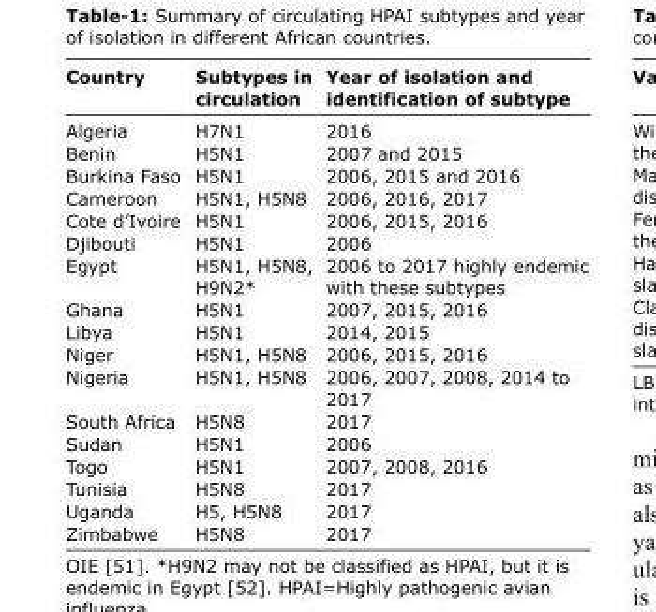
<table><thead><tr><td>Country</td><td>Subtypes in circulation</td><td>Year of isolation and identification of subtype</td></tr></thead><tbody><tr><td>Algeria</td><td>H7N1</td><td>2016</td></tr><tr><td>Benin</td><td>H5N1</td><td>2007 and 2015</td></tr><tr><td>Burkina Faso</td><td>H5N1</td><td>2006, 2015 and 2016</td></tr><tr><td>Cameroon</td><td>H5N1, H5N8</td><td>2006, 2016, 2017</td></tr><tr><td>Cote d’Ivoire</td><td>H5N1</td><td>2006, 2015, 2016</td></tr><tr><td>Djibouti</td><td>H5N1</td><td>2006</td></tr><tr><td>Egypt</td><td>H5N1, H5N8, H9N2*</td><td>2006 to 2017 highly endemic with these subtypes</td></tr><tr><td>Ghana</td><td>H5N1</td><td>2007, 2015, 2016</td></tr><tr><td>Libya</td><td>H5N1</td><td>2014, 2015</td></tr><tr><td>Niger</td><td>H5N1, H5N8</td><td>2006, 2015, 2016</td></tr><tr><td>Nigeria</td><td>H5N1, H5N8</td><td>2006, 2007, 2008, 2014 to 2017</td></tr><tr><td>South Africa</td><td>H5N8</td><td>2017</td></tr><tr><td>Sudan</td><td>H5N1</td><td>2006</td></tr><tr><td>Togo</td><td>H5N1</td><td>2007, 2008, 2016</td></tr><tr><td>Tunisia</td><td>H5N8</td><td>2017</td></tr><tr><td>Uganda</td><td>H5, H5N8</td><td>2017</td></tr><tr><td>Zimbabwe</td><td>H5N8</td><td>2017</td></tr></tbody></table>